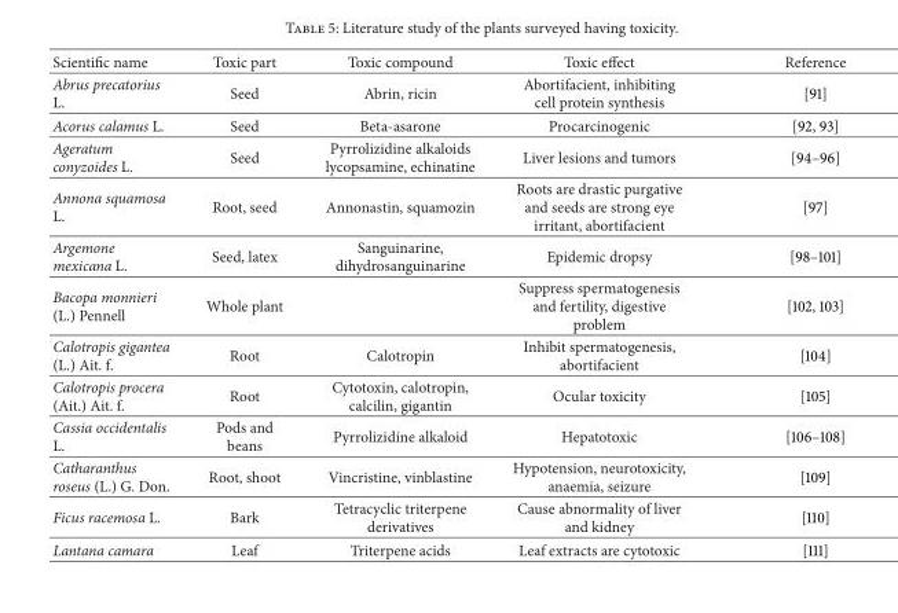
<table><thead><tr><td>Scientific name</td><td>Toxic part</td><td>Toxic compound</td><td>Toxic effect</td><td>Reference</td></tr></thead><tbody><tr><td>Abrus precatorius L.</td><td>Seed</td><td>Abrin, ricin</td><td>Abortifacient, inhibiting cell protein synthesis</td><td>[91]</td></tr><tr><td>Acorus calamus L.</td><td>Seed</td><td>Beta-asarone</td><td>Procarcinogenic</td><td>[92, 93]</td></tr><tr><td>Ageratum conyzoides L.</td><td>Seed</td><td>Pyrrolizidine alkaloids lycopsamine, echinatine</td><td>Liver lesions and tumors</td><td>[94–96]</td></tr><tr><td>Annona squamosa L.</td><td>Root, seed</td><td>Annonastin, squamozin</td><td>Roots are drastic purgative and seeds are strong eye irritant, abortifacient</td><td>[97]</td></tr><tr><td>Argemone mexicana L.</td><td>Seed, latex</td><td>Sanguinarine, dihydrosanguinarine</td><td>Epidemic dropsy</td><td>[98–101]</td></tr><tr><td>Bacopa monnieri (L.) Pennell</td><td>Whole plant</td><td></td><td>Suppress spermatogenesis and fertility, digestive problem</td><td>[102, 103]</td></tr><tr><td>Calotropis gigantea (L.) Ait. f.</td><td>Root</td><td>Calotropin</td><td>Inhibit spermatogenesis, abortifacient</td><td>[104]</td></tr><tr><td>Calotropis procera (Ait.) Ait. f.</td><td>Root</td><td>Cytotoxin, calotropin, calcilin, gigantin</td><td>Ocular toxicity</td><td>[105]</td></tr><tr><td>Cassia occidentalis L.</td><td>Pods and beans</td><td>Pyrrolizidine alkaloid</td><td>Hepatotoxic</td><td>[106–108]</td></tr><tr><td>Catharanthus roseus (L.) G. Don.</td><td>Root, shoot</td><td>Vincristine, vinblastine</td><td>Hypotension, neurotoxicity, anaemia, seizure</td><td>[109]</td></tr><tr><td>Ficus racemosa L.</td><td>Bark</td><td>Tetracyclic triterpene derivatives</td><td>Cause abnormality of liver and kidney</td><td>[110]</td></tr><tr><td>Lantana camara</td><td>Leaf</td><td>Triterpene acids</td><td>Leaf extracts are cytotoxic</td><td>[111]</td></tr></tbody></table>